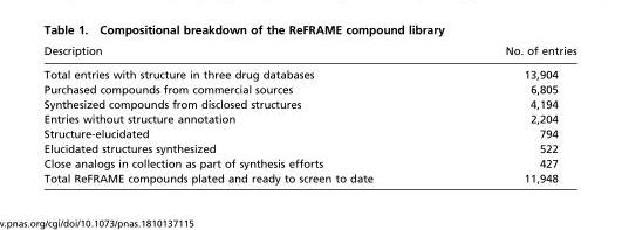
<table><thead><tr><td>Description</td><td>No. of entries</td></tr></thead><tbody><tr><td>Total entries with structure in three drug databases</td><td>13,904</td></tr><tr><td>Purchased compounds from commercial sources</td><td>6,805</td></tr><tr><td>Synthesized compounds from disclosed structures</td><td>4,194</td></tr><tr><td>Entries without structure annotation</td><td>2,204</td></tr><tr><td>Structure-elucidated</td><td>794</td></tr><tr><td>Elucidated structures synthesized</td><td>522</td></tr><tr><td>Close analogs in collection as part of synthesis efforts</td><td>427</td></tr><tr><td>Total ReFRAME compounds plated and ready to screen to date</td><td>11,948</td></tr></tbody></table>